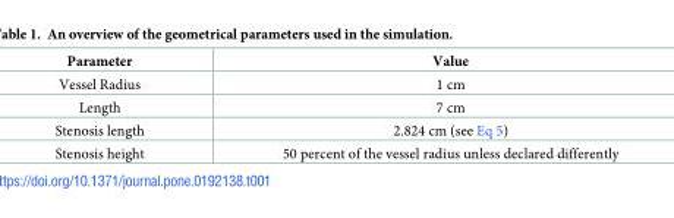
<table><thead><tr><td>Parameter</td><td>Value</td></tr></thead><tbody><tr><td>Vessel Radius</td><td>1 cm</td></tr><tr><td>Length</td><td>7 cm</td></tr><tr><td>Stenosis length</td><td>2.824 cm (see Eq 5)</td></tr><tr><td>Stenosis height</td><td>50 percent of the vessel radius unless declared differently</td></tr></tbody></table>